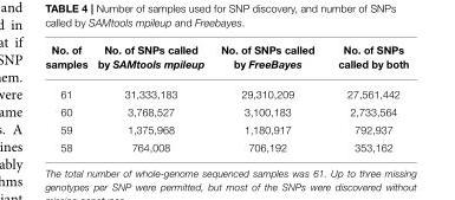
<table><thead><tr><td>No. of samples</td><td>No. of SNPs called by SAMtools mpileup</td><td>No. of SNPs called by FreeBayes</td><td>No. of SNPs called by both</td></tr></thead><tbody><tr><td>61</td><td>31,333,183</td><td>29,310,209</td><td>27,561,442</td></tr><tr><td>60</td><td>3,768,527</td><td>3,100,183</td><td>2,733,564</td></tr><tr><td>59</td><td>1,375,968</td><td>1,180,917</td><td>792,937</td></tr><tr><td>58</td><td>764,008</td><td>706,192</td><td>353,162</td></tr></tbody></table>